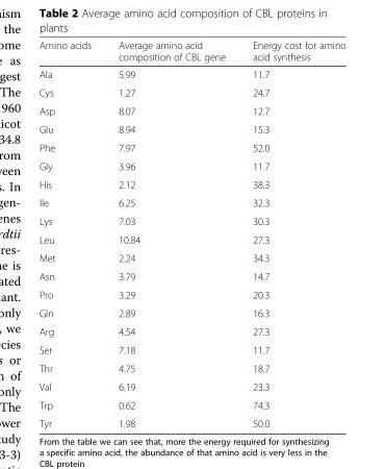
<table><thead><tr><td>Amino acids</td><td>Average amino acid composition of CBL gene</td><td>Energy cost for amino acid synthesis</td></tr></thead><tbody><tr><td>Ala</td><td>5.99</td><td>11.7</td></tr><tr><td>Cys</td><td>1.27</td><td>24.7</td></tr><tr><td>Asp</td><td>8.07</td><td>12.7</td></tr><tr><td>Glu</td><td>8.94</td><td>15.3</td></tr><tr><td>Phe</td><td>7.97</td><td>52.0</td></tr><tr><td>Gly</td><td>3.96</td><td>11.7</td></tr><tr><td>His</td><td>2.12</td><td>38.3</td></tr><tr><td>Ile</td><td>6.25</td><td>32.3</td></tr><tr><td>Lys</td><td>7.03</td><td>30.3</td></tr><tr><td>Leu</td><td>10.84</td><td>27.3</td></tr><tr><td>Met</td><td>2.24</td><td>34.3</td></tr><tr><td>Asn</td><td>3.79</td><td>14.7</td></tr><tr><td>Pro</td><td>3.29</td><td>20.3</td></tr><tr><td>Gln</td><td>2.89</td><td>16.3</td></tr><tr><td>Arg</td><td>4.54</td><td>27.3</td></tr><tr><td>Ser</td><td>7.18</td><td>11.7</td></tr><tr><td>Thr</td><td>4.75</td><td>18.7</td></tr><tr><td>Val</td><td>6.19</td><td>23.3</td></tr><tr><td>Trp</td><td>0.62</td><td>74.3</td></tr><tr><td>Tyr</td><td>1.98</td><td>50.0</td></tr></tbody></table>